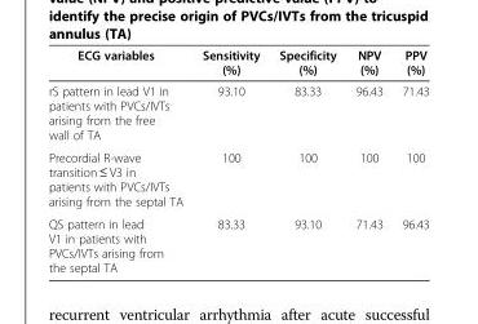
<table><thead><tr><td>ECG variables</td><td>Sensitivity (%)</td><td>Specificity (%)</td><td>NPV (%)</td><td>PPV (%)</td></tr></thead><tbody><tr><td>rS pattern in lead V1 in patients with PVCs/IVTs arising from the free wall of TA</td><td>93.10</td><td>83.33</td><td>96.43</td><td>71.43</td></tr><tr><td>Precordial R-wave transition ≤ V3 in patients with PVCs/IVTs arising from the septal TA</td><td>100</td><td>100</td><td>100</td><td>100</td></tr><tr><td>QS pattern in lead V1 in patients with PVCs/IVTs arising from the septal TA</td><td>83.33</td><td>93.10</td><td>71.43</td><td>96.43</td></tr></tbody></table>